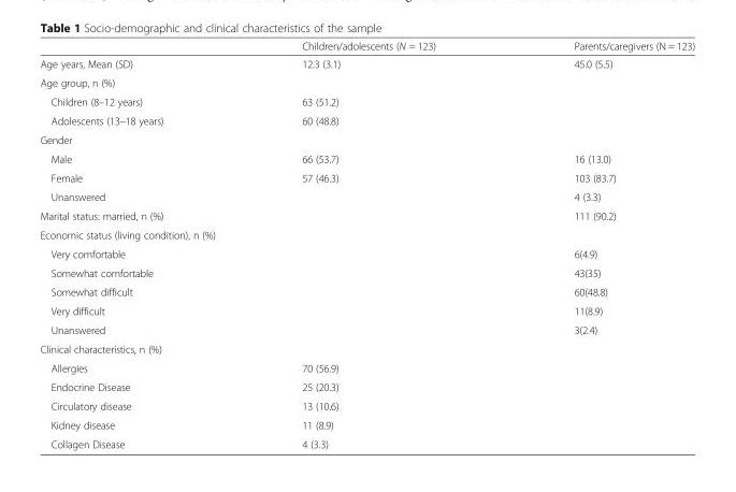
<table><thead><tr><td></td><td>Children/adolescents (N = 123)</td><td>Parents/caregivers (N = 123)</td></tr></thead><tbody><tr><td>Age years, Mean (SD)</td><td>12.3 (3.1)</td><td>45.0 (5.5)</td></tr><tr><td colspan="3">Age group, n (%)</td></tr><tr><td>Children (8–12 years)</td><td>63 (51.2)</td><td></td></tr><tr><td>Adolescents (13–18 years)</td><td>60 (48.8)</td><td></td></tr><tr><td colspan="3">Gender</td></tr><tr><td>Male</td><td>66 (53.7)</td><td>16 (13.0)</td></tr><tr><td>Female</td><td>57 (46.3)</td><td>103 (83.7)</td></tr><tr><td>Unanswered</td><td></td><td>4 (3.3)</td></tr><tr><td>Marital status: married, n (%)</td><td></td><td>111 (90.2)</td></tr><tr><td colspan="3">Economic status (living condition), n (%)</td></tr><tr><td>Very comfortable</td><td></td><td>6(4.9)</td></tr><tr><td>Somewhat comfortable</td><td></td><td>43(35)</td></tr><tr><td>Somewhat difficult</td><td></td><td>60(48.8)</td></tr><tr><td>Very difficult</td><td></td><td>11(8.9)</td></tr><tr><td>Unanswered</td><td></td><td>3(2.4)</td></tr><tr><td colspan="3">Clinical characteristics, n (%)</td></tr><tr><td>Allergies</td><td>70 (56.9)</td><td></td></tr><tr><td>Endocrine Disease</td><td>25 (20.3)</td><td></td></tr><tr><td>Circulatory disease</td><td>13 (10.6)</td><td></td></tr><tr><td>Kidney disease</td><td>11 (8.9)</td><td></td></tr><tr><td>Collagen Disease</td><td>4 (3.3)</td><td></td></tr></tbody></table>